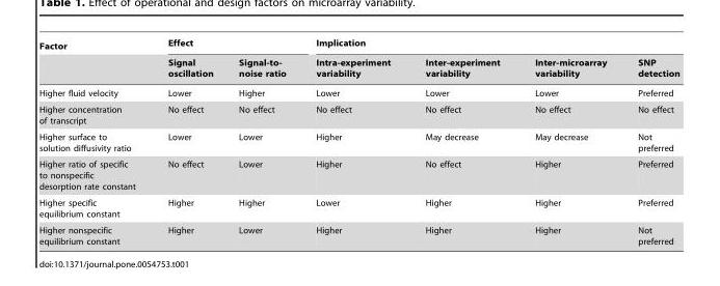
<table><thead><tr><td rowspan="2">Factor</td><td colspan="2">Effect</td><td colspan="4">Implication</td></tr><tr><td>Signal oscillation</td><td>Signal-to- noise ratio</td><td>Intra-experiment variability</td><td>Inter-experiment variability</td><td>Inter-microarray variability</td><td>SNP detection</td></tr></thead><tbody><tr><td>Higher fluid velocity</td><td>Lower</td><td>Higher</td><td>Lower</td><td>Lower</td><td>Lower</td><td>Preferred</td></tr><tr><td>Higher concentration of transcript</td><td>No effect</td><td>No effect</td><td>No effect</td><td>No effect</td><td>No effect</td><td>No effect</td></tr><tr><td>Higher surface to solution diffusivity ratio</td><td>Lower</td><td>Lower</td><td>Higher</td><td>May decrease</td><td>May decrease</td><td>Not preferred</td></tr><tr><td>Higher ratio of specific to nonspecific desorption rate constant</td><td>No effect</td><td>Lower</td><td>Higher</td><td>No effect</td><td>Higher</td><td>Preferred</td></tr><tr><td>Higher specific equilibrium constant</td><td>Higher</td><td>Higher</td><td>Lower</td><td>Higher</td><td>Higher</td><td>Preferred</td></tr><tr><td>Higher nonspecific equilibrium constant</td><td>Higher</td><td>Lower</td><td>Higher</td><td>Higher</td><td>Higher</td><td>Not preferred</td></tr></tbody></table>